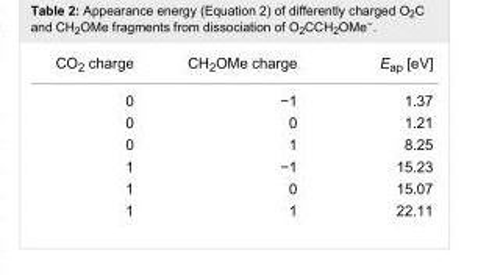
<table><tbody><tr><td>CO<sub>2</sub> charge</td><td>CH<sub>2</sub>OMe charge</td><td>E<sub>ap</sub> [eV]</td></tr><tr><td>0</td><td>−1</td><td>1.37</td></tr><tr><td>0</td><td>0</td><td>1.21</td></tr><tr><td>0</td><td>1</td><td>8.25</td></tr><tr><td>1</td><td>−1</td><td>15.23</td></tr><tr><td>1</td><td>0</td><td>15.07</td></tr><tr><td>1</td><td>1</td><td>22.11</td></tr></tbody></table>